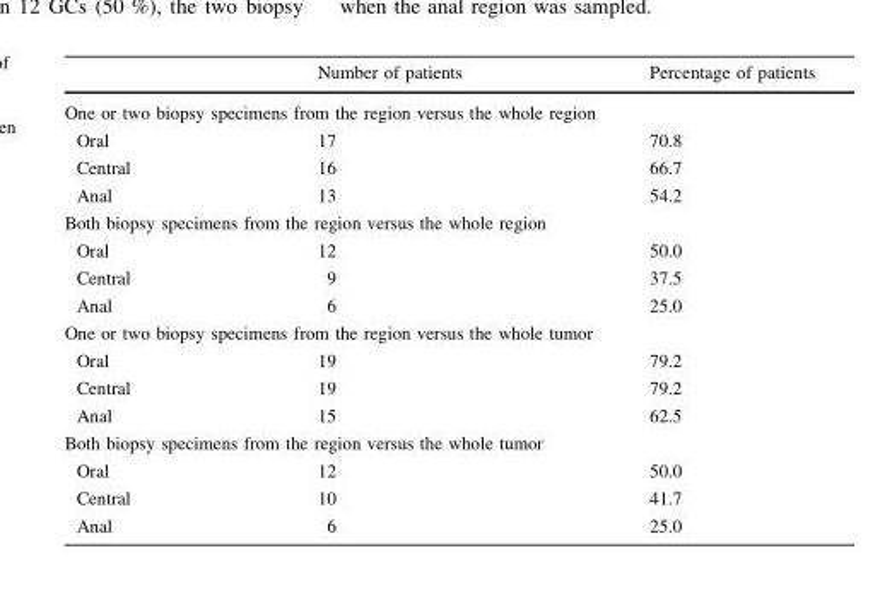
<table><thead><tr><td></td><td>Number of patients</td><td>Percentage of patients</td></tr></thead><tbody><tr><td colspan="3">One or two biopsy specimens from the region versus the whole region</td></tr><tr><td>Oral</td><td>17</td><td>70.8</td></tr><tr><td>Central</td><td>16</td><td>66.7</td></tr><tr><td>Anal</td><td>13</td><td>54.2</td></tr><tr><td colspan="3">Both biopsy specimens from the region versus the whole region</td></tr><tr><td>Oral</td><td>12</td><td>50.0</td></tr><tr><td>Central</td><td>9</td><td>37.5</td></tr><tr><td>Anal</td><td>6</td><td>25.0</td></tr><tr><td colspan="3">One or two biopsy specimens from the region versus the whole tumor</td></tr><tr><td>Oral</td><td>19</td><td>79.2</td></tr><tr><td>Central</td><td>19</td><td>79.2</td></tr><tr><td>Anal</td><td>15</td><td>62.5</td></tr><tr><td colspan="3">Both biopsy specimens from the region versus the whole tumor</td></tr><tr><td>Oral</td><td>12</td><td>50.0</td></tr><tr><td>Central</td><td>10</td><td>41.7</td></tr><tr><td>Anal</td><td>6</td><td>25.0</td></tr></tbody></table>